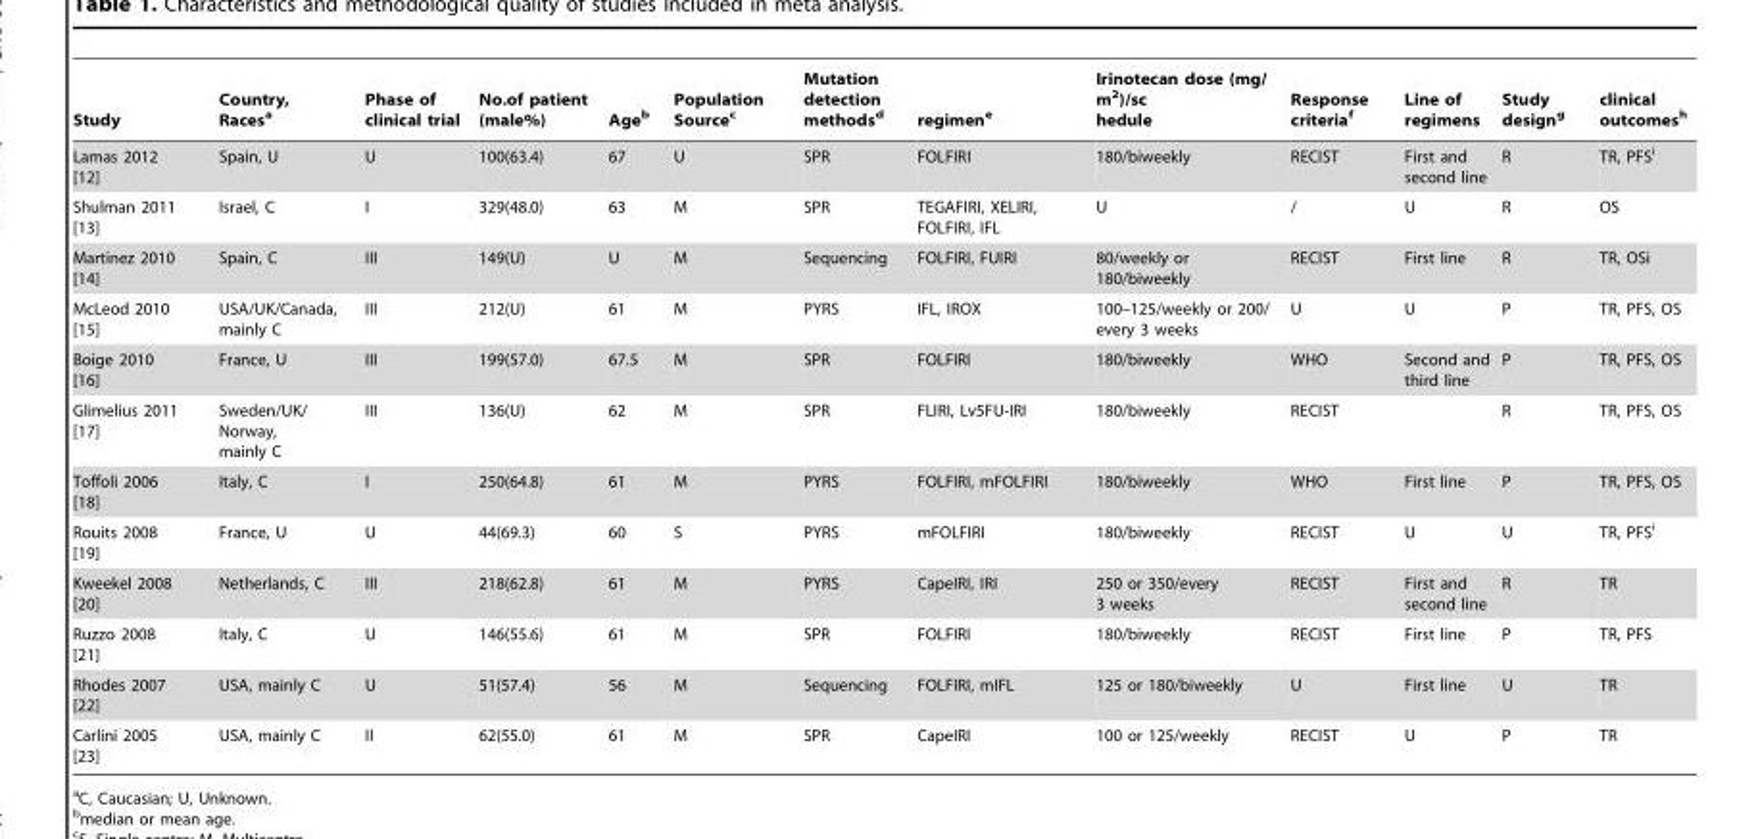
<table><thead><tr><td>Study</td><td>Country, Races<sup>a</sup></td><td>Phase of clinical trial</td><td>No.of patient (male%)</td><td>Age<sup>b</sup></td><td>Population Source<sup>c</sup></td><td>Mutation detection methods<sup>d</sup></td><td>regimen<sup>e</sup></td><td>Irinotecan dose (mg/ m<sup>2</sup>)/sc hedule</td><td>Response criteria<sup>f</sup></td><td>Line of regimens</td><td>Study design<sup>g</sup></td><td>clinical outcomes<sup>h</sup></td></tr></thead><tbody><tr><td>Lamas 2012 [12]</td><td>Spain, U</td><td>U</td><td>100(63.4)</td><td>67</td><td>U</td><td>SPR</td><td>FOLFIRI</td><td>180/biweekly</td><td>RECIST</td><td>First and second line</td><td>R</td><td>TR, PFS<sup>i</sup></td></tr><tr><td>Shulman 2011 [13]</td><td>Israel, C</td><td>I</td><td>329(48.0)</td><td>63</td><td>M</td><td>SPR</td><td>TEGAFIRI, XELIRI, FOLFIRI, IFL</td><td>U</td><td>/</td><td>U</td><td>R</td><td>OS</td></tr><tr><td>Martinez 2010 [14]</td><td>Spain, C</td><td>III</td><td>149(U)</td><td>U</td><td>M</td><td>Sequencing</td><td>FOLFIRI, FUIRI</td><td>80/weekly or 180/biweekly</td><td>RECIST</td><td>First line</td><td>R</td><td>TR, OSi</td></tr><tr><td>McLeod 2010 [15]</td><td>USA/UK/Canada, mainly C</td><td>III</td><td>212(U)</td><td>61</td><td>M</td><td>PYRS</td><td>IFL, IROX</td><td>100–125/weekly or 200/ every 3 weeks</td><td>U</td><td>U</td><td>P</td><td>TR, PFS, OS</td></tr><tr><td>Boige 2010 [16]</td><td>France, U</td><td>III</td><td>199(57.0)</td><td>67.5</td><td>M</td><td>SPR</td><td>FOLFIRI</td><td>180/biweekly</td><td>WHO</td><td>Second and third line</td><td>P</td><td>TR, PFS, OS</td></tr><tr><td>Glimelius 2011 [17]</td><td>Sweden/UK/ Norway, mainly C</td><td>III</td><td>136(U)</td><td>62</td><td>M</td><td>SPR</td><td>FLIRI, Lv5FU-IRI</td><td>180/biweekly</td><td>RECIST</td><td></td><td>R</td><td>TR, PFS, OS</td></tr><tr><td>Toffoli 2006 [18]</td><td>Italy, C</td><td>I</td><td>250(64.8)</td><td>61</td><td>M</td><td>PYRS</td><td>FOLFIRI, mFOLFIRI</td><td>180/biweekly</td><td>WHO</td><td>First line</td><td>P</td><td>TR, PFS, OS</td></tr><tr><td>Rouits 2008 [19]</td><td>France, U</td><td>U</td><td>44(69.3)</td><td>60</td><td>S</td><td>PYRS</td><td>mFOLFIRI</td><td>180/biweekly</td><td>RECIST</td><td>U</td><td>U</td><td>TR, PFS<sup>i</sup></td></tr><tr><td>Kweekel 2008 [20]</td><td>Netherlands, C</td><td>III</td><td>218(62.8)</td><td>61</td><td>M</td><td>PYRS</td><td>CapeIRI, IRI</td><td>250 or 350/every 3 weeks</td><td>RECIST</td><td>First and second line</td><td>R</td><td>TR</td></tr><tr><td>Ruzzo 2008 [21]</td><td>Italy, C</td><td>U</td><td>146(55.6)</td><td>61</td><td>M</td><td>SPR</td><td>FOLFIRI</td><td>180/biweekly</td><td>RECIST</td><td>First line</td><td>P</td><td>TR, PFS</td></tr><tr><td>Rhodes 2007 [22]</td><td>USA, mainly C</td><td>U</td><td>51(57.4)</td><td>56</td><td>M</td><td>Sequencing</td><td>FOLFIRI, mIFL</td><td>125 or 180/biweekly</td><td>U</td><td>First line</td><td>U</td><td>TR</td></tr><tr><td>Carlini 2005 [23]</td><td>USA, mainly C</td><td>II</td><td>62(55.0)</td><td>61</td><td>M</td><td>SPR</td><td>CapeIRI</td><td>100 or 125/weekly</td><td>RECIST</td><td>U</td><td>P</td><td>TR</td></tr></tbody></table>